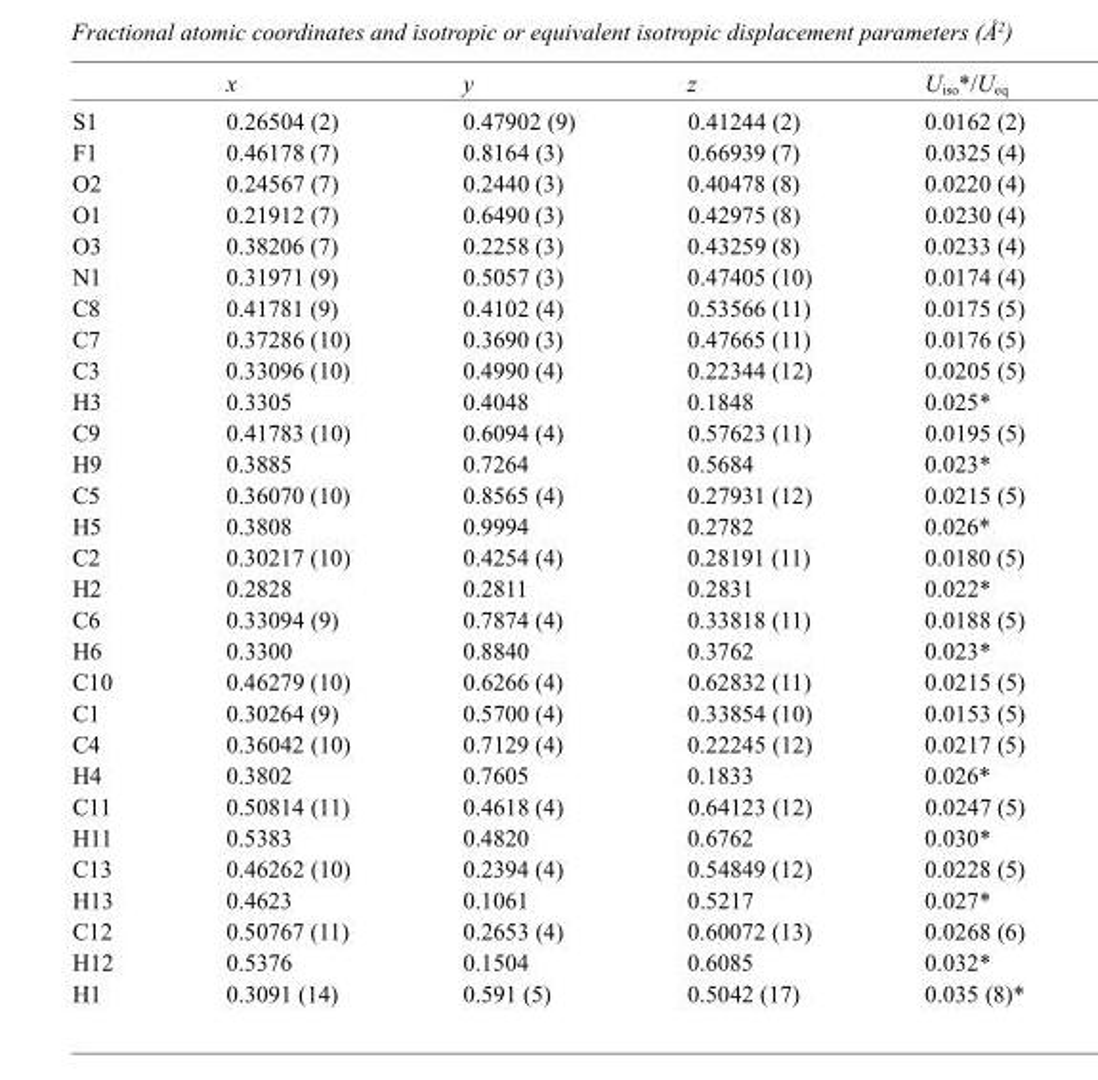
<table><thead><tr><td></td><td>x</td><td>y</td><td>z</td><td>U<sub>iso</sub>*/U<sub>eq</sub></td></tr></thead><tbody><tr><td>S1</td><td>0.26504 (2)</td><td>0.47902 (9)</td><td>0.41244 (2)</td><td>0.0162 (2)</td></tr><tr><td>F1</td><td>0.46178 (7)</td><td>0.8164 (3)</td><td>0.66939 (7)</td><td>0.0325 (4)</td></tr><tr><td>O2</td><td>0.24567 (7)</td><td>0.2440 (3)</td><td>0.40478 (8)</td><td>0.0220 (4)</td></tr><tr><td>O1</td><td>0.21912 (7)</td><td>0.6490 (3)</td><td>0.42975 (8)</td><td>0.0230 (4)</td></tr><tr><td>O3</td><td>0.38206 (7)</td><td>0.2258 (3)</td><td>0.43259 (8)</td><td>0.0233 (4)</td></tr><tr><td>N1</td><td>0.31971 (9)</td><td>0.5057 (3)</td><td>0.47405 (10)</td><td>0.0174 (4)</td></tr><tr><td>C8</td><td>0.41781 (9)</td><td>0.4102 (4)</td><td>0.53566 (11)</td><td>0.0175 (5)</td></tr><tr><td>C7</td><td>0.37286 (10)</td><td>0.3690 (3)</td><td>0.47665 (11)</td><td>0.0176 (5)</td></tr><tr><td>C3</td><td>0.33096 (10)</td><td>0.4990 (4)</td><td>0.22344 (12)</td><td>0.0205 (5)</td></tr><tr><td>H3</td><td>0.3305</td><td>0.4048</td><td>0.1848</td><td>0.025*</td></tr><tr><td>C9</td><td>0.41783 (10)</td><td>0.6094 (4)</td><td>0.57623 (11)</td><td>0.0195 (5)</td></tr><tr><td>H9</td><td>0.3885</td><td>0.7264</td><td>0.5684</td><td>0.023*</td></tr><tr><td>C5</td><td>0.36070 (10)</td><td>0.8565 (4)</td><td>0.27931 (12)</td><td>0.0215 (5)</td></tr><tr><td>H5</td><td>0.3808</td><td>0.9994</td><td>0.2782</td><td>0.026*</td></tr><tr><td>C2</td><td>0.30217 (10)</td><td>0.4254 (4)</td><td>0.28191 (11)</td><td>0.0180 (5)</td></tr><tr><td>H2</td><td>0.2828</td><td>0.2811</td><td>0.2831</td><td>0.022*</td></tr><tr><td>C6</td><td>0.33094 (9)</td><td>0.7874 (4)</td><td>0.33818 (11)</td><td>0.0188 (5)</td></tr><tr><td>H6</td><td>0.3300</td><td>0.8840</td><td>0.3762</td><td>0.023*</td></tr><tr><td>C10</td><td>0.46279 (10)</td><td>0.6266 (4)</td><td>0.62832 (11)</td><td>0.0215 (5)</td></tr><tr><td>C1</td><td>0.30264 (9)</td><td>0.5700 (4)</td><td>0.33854 (10)</td><td>0.0153 (5)</td></tr><tr><td>C4</td><td>0.36042 (10)</td><td>0.7129 (4)</td><td>0.22245 (12)</td><td>0.0217 (5)</td></tr><tr><td>H4</td><td>0.3802</td><td>0.7605</td><td>0.1833</td><td>0.026*</td></tr><tr><td>C11</td><td>0.50814 (11)</td><td>0.4618 (4)</td><td>0.64123 (12)</td><td>0.0247 (5)</td></tr><tr><td>H11</td><td>0.5383</td><td>0.4820</td><td>0.6762</td><td>0.030*</td></tr><tr><td>C13</td><td>0.46262 (10)</td><td>0.2394 (4)</td><td>0.54849 (12)</td><td>0.0228 (5)</td></tr><tr><td>H13</td><td>0.4623</td><td>0.1061</td><td>0.5217</td><td>0.027*</td></tr><tr><td>C12</td><td>0.50767 (11)</td><td>0.2653 (4)</td><td>0.60072 (13)</td><td>0.0268 (6)</td></tr><tr><td>H12</td><td>0.5376</td><td>0.1504</td><td>0.6085</td><td>0.032*</td></tr><tr><td>H1</td><td>0.3091 (14)</td><td>0.591 (5)</td><td>0.5042 (17)</td><td>0.035 (8)*</td></tr></tbody></table>